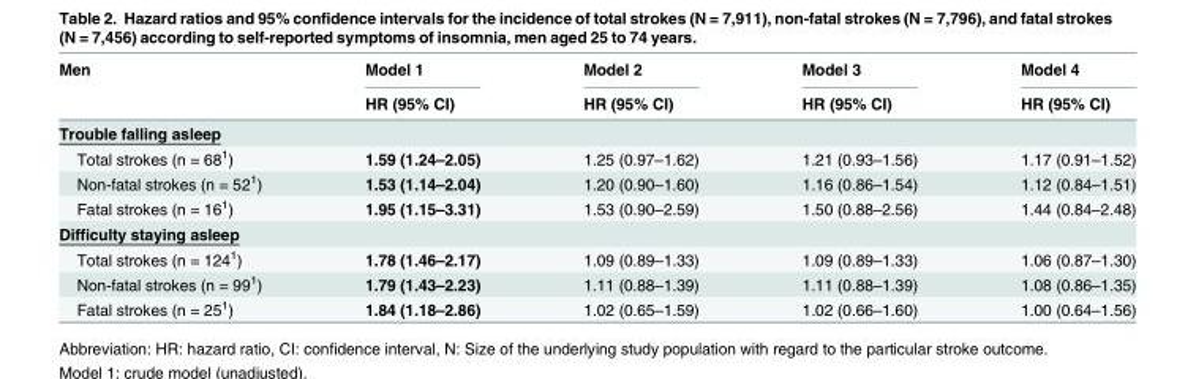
<table><thead><tr><td rowspan="2">Men</td><td rowspan="2">Model 1 HR (95% CI)</td><td rowspan="2">Model 2 HR (95% CI)</td><td rowspan="2">Model 3 HR (95% CI)</td><td rowspan="2">Model 4 HR (95% CI)</td></tr><tr></tr></thead><tbody><tr><td colspan="5">Trouble falling asleep</td></tr><tr><td>Total strokes (n = 68<sup>1</sup>)</td><td>1.59 (1.24–2.05)</td><td>1.25 (0.97–1.62)</td><td>1.21 (0.93–1.56)</td><td>1.17 (0.91–1.52)</td></tr><tr><td>Non-fatal strokes (n = 52<sup>1</sup>)</td><td>1.53 (1.14–2.04)</td><td>1.20 (0.90–1.60)</td><td>1.16 (0.86–1.54)</td><td>1.12 (0.84–1.51)</td></tr><tr><td>Fatal strokes (n = 16<sup>1</sup>)</td><td>1.95 (1.15–3.31)</td><td>1.53 (0.90–2.59)</td><td>1.50 (0.88–2.56)</td><td>1.44 (0.84–2.48)</td></tr><tr><td colspan="5">Difficulty staying asleep</td></tr><tr><td>Total strokes (n = 124<sup>1</sup>)</td><td>1.78 (1.46–2.17)</td><td>1.09 (0.89–1.33)</td><td>1.09 (0.89–1.33)</td><td>1.06 (0.87–1.30)</td></tr><tr><td>Non-fatal strokes (n = 99<sup>1</sup>)</td><td>1.79 (1.43–2.23)</td><td>1.11 (0.88–1.39)</td><td>1.11 (0.88–1.39)</td><td>1.08 (0.86–1.35)</td></tr><tr><td>Fatal strokes (n = 25<sup>1</sup>)</td><td>1.84 (1.18–2.86)</td><td>1.02 (0.65–1.59)</td><td>1.02 (0.66–1.60)</td><td>1.00 (0.64–1.56)</td></tr></tbody></table>